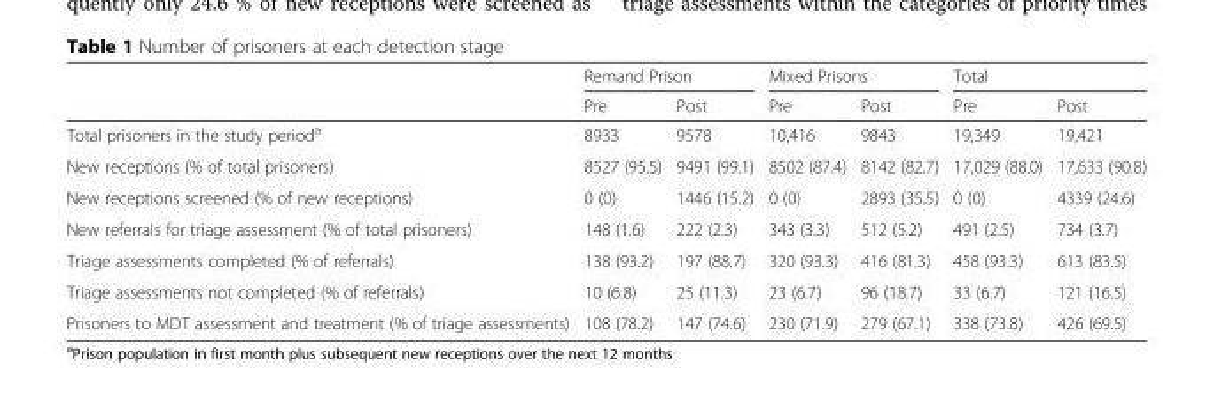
<table><thead><tr><td rowspan="2"></td><td colspan="2">Remand Prison</td><td colspan="2">Mixed Prisons</td><td colspan="2">Total</td></tr><tr><td>Pre</td><td>Post</td><td>Pre</td><td>Post</td><td>Pre</td><td>Post</td></tr></thead><tbody><tr><td>Total prisoners in the study period<sup>a</sup></td><td>8933</td><td>9578</td><td>10,416</td><td>9843</td><td>19,349</td><td>19,421</td></tr><tr><td>New receptions (% of total prisoners)</td><td>8527 (95.5)</td><td>9491 (99.1)</td><td>8502 (87.4)</td><td>8142 (82.7)</td><td>17,029 (88.0)</td><td>17,633 (90.8)</td></tr><tr><td>New receptions screened (% of new receptions)</td><td>0 (0)</td><td>1446 (15.2)</td><td>0 (0)</td><td>2893 (35.5)</td><td>0 (0)</td><td>4339 (24.6)</td></tr><tr><td>New referrals for triage assessment (% of total prisoners)</td><td>148 (1.6)</td><td>222 (2.3)</td><td>343 (3.3)</td><td>512 (5.2)</td><td>491 (2.5)</td><td>734 (3.7)</td></tr><tr><td>Triage assessments completed (% of referrals)</td><td>138 (93.2)</td><td>197 (88.7)</td><td>320 (93.3)</td><td>416 (81.3)</td><td>458 (93.3)</td><td>613 (83.5)</td></tr><tr><td>Triage assessments not completed (% of referrals)</td><td>10 (6.8)</td><td>25 (11.3)</td><td>23 (6.7)</td><td>96 (18.7)</td><td>33 (6.7)</td><td>121 (16.5)</td></tr><tr><td>Prisoners to MDT assessment and treatment (% of triage assessments)</td><td>108 (78.2)</td><td>147 (74.6)</td><td>230 (71.9)</td><td>279 (67.1)</td><td>338 (73.8)</td><td>426 (69.5)</td></tr></tbody></table>